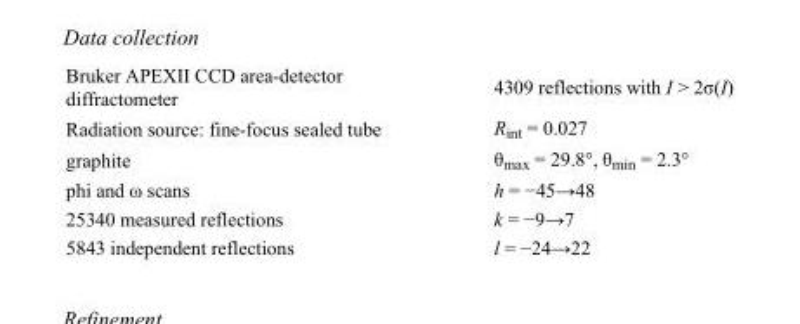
<table><tbody><tr><td>Bruker APEXII CCD area-detector diffractometer</td><td>4309 reflections with I &gt; 2σ(I)</td></tr><tr><td>Radiation source: fine-focus sealed tube</td><td>R<sub>int</sub> = 0.027</td></tr><tr><td>graphite</td><td>θ<sub>max</sub> = 29.8°, θ<sub>min</sub> = 2.3°</td></tr><tr><td>phi and ω scans</td><td>h = −45→48</td></tr><tr><td>25340 measured reflections</td><td>k = −9→7</td></tr><tr><td>5843 independent reflections</td><td>l = −24→22</td></tr></tbody></table>